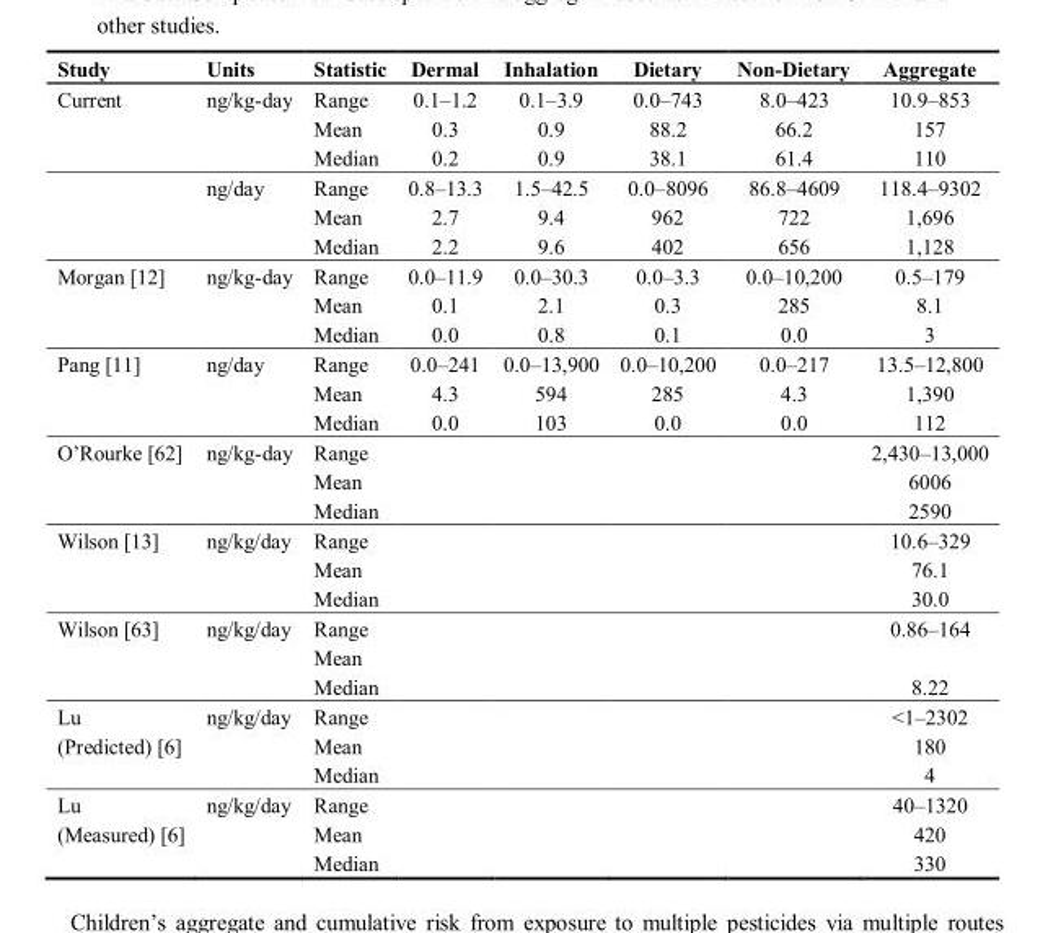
<table><thead><tr><td>Study</td><td>Units</td><td>Statistic</td><td>Dermal</td><td>Inhalation</td><td>Dietary</td><td>Non-Dietary</td><td>Aggregate</td></tr></thead><tbody><tr><td rowspan="6">Current</td><td>ng/kg-day</td><td>Range</td><td>0.1–1.2</td><td>0.1–3.9</td><td>0.0–743</td><td>8.0–423</td><td>10.9–853</td></tr><tr><td></td><td>Mean</td><td>0.3</td><td>0.9</td><td>88.2</td><td>66.2</td><td>157</td></tr><tr><td></td><td>Median</td><td>0.2</td><td>0.9</td><td>38.1</td><td>61.4</td><td>110</td></tr><tr><td>ng/day</td><td>Range</td><td>0.8–13.3</td><td>1.5–42.5</td><td>0.0–8096</td><td>86.8–4609</td><td>118.4–9302</td></tr><tr><td></td><td>Mean</td><td>2.7</td><td>9.4</td><td>962</td><td>722</td><td>1,696</td></tr><tr><td></td><td>Median</td><td>2.2</td><td>9.6</td><td>402</td><td>656</td><td>1,128</td></tr><tr><td rowspan="3">Morgan [12]</td><td>ng/kg-day</td><td>Range</td><td>0.0–11.9</td><td>0.0–30.3</td><td>0.0–3.3</td><td>0.0–10,200</td><td>0.5–179</td></tr><tr><td></td><td>Mean</td><td>0.1</td><td>2.1</td><td>0.3</td><td>285</td><td>8.1</td></tr><tr><td></td><td>Median</td><td>0.0</td><td>0.8</td><td>0.1</td><td>0.0</td><td>3</td></tr><tr><td rowspan="3">Pang [11]</td><td>ng/day</td><td>Range</td><td>0.0–241</td><td>0.0–13,900</td><td>0.0–10,200</td><td>0.0–217</td><td>13.5–12,800</td></tr><tr><td></td><td>Mean</td><td>4.3</td><td>594</td><td>285</td><td>4.3</td><td>1,390</td></tr><tr><td></td><td>Median</td><td>0.0</td><td>103</td><td>0.0</td><td>0.0</td><td>112</td></tr><tr><td rowspan="3">O’Rourke [62]</td><td>ng/kg-day</td><td>Range</td><td></td><td></td><td></td><td></td><td>2,430–13,000</td></tr><tr><td></td><td>Mean</td><td></td><td></td><td></td><td></td><td>6006</td></tr><tr><td></td><td>Median</td><td></td><td></td><td></td><td></td><td>2590</td></tr><tr><td rowspan="3">Wilson [13]</td><td>ng/kg/day</td><td>Range</td><td></td><td></td><td></td><td></td><td>10.6–329</td></tr><tr><td></td><td>Mean</td><td></td><td></td><td></td><td></td><td>76.1</td></tr><tr><td></td><td>Median</td><td></td><td></td><td></td><td></td><td>30.0</td></tr><tr><td rowspan="3">Wilson [63]</td><td>ng/kg/day</td><td>Range</td><td></td><td></td><td></td><td></td><td>0.86–164</td></tr><tr><td></td><td>Mean</td><td></td><td></td><td></td><td></td><td></td></tr><tr><td></td><td>Median</td><td></td><td></td><td></td><td></td><td>8.22</td></tr><tr><td>Lu</td><td>ng/kg/day</td><td>Range</td><td></td><td></td><td></td><td></td><td>&lt;1–2302</td></tr><tr><td rowspan="2">(Predicted) [6]</td><td></td><td>Mean</td><td></td><td></td><td></td><td></td><td>180</td></tr><tr><td></td><td>Median</td><td></td><td></td><td></td><td></td><td>4</td></tr><tr><td>Lu</td><td>ng/kg/day</td><td>Range</td><td></td><td></td><td></td><td></td><td>40–1320</td></tr><tr><td rowspan="2">(Measured) [6]</td><td></td><td>Mean</td><td></td><td></td><td></td><td></td><td>420</td></tr><tr><td></td><td>Median</td><td></td><td></td><td></td><td></td><td>330</td></tr></tbody></table>